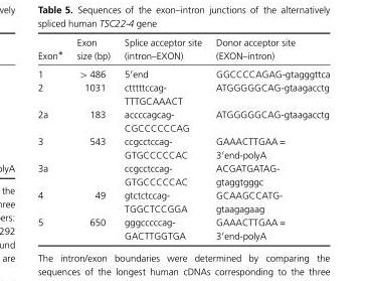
<table><thead><tr><td>Exon*</td><td>Exon size (bp)</td><td>Splice acceptor site (intron–EXON)</td><td>Donor acceptor site (EXON–intron)</td></tr></thead><tbody><tr><td>1</td><td>&gt; 486</td><td>5′end</td><td>GGCCCCAGAG-gtagggttca</td></tr><tr><td>2</td><td>1031</td><td>ctttttccag- TTTGCAAACT</td><td>ATGGGGGCAG-gtaagacctg</td></tr><tr><td>2a</td><td>183</td><td>accccagcag- CGCCCCCCAG</td><td>ATGGGGGCAG-gtaagacctg</td></tr><tr><td>3</td><td>543</td><td>ccgcctccag- GTGCCCCCAC</td><td>GAAACTTGAA = 3′end-polyA</td></tr><tr><td>3a</td><td></td><td>ccgcctccag- GTGCCCCCAC</td><td>ACGATGATAG- gtaggtgggc</td></tr><tr><td>4</td><td>49</td><td>gtctctccag- TGGCTCCGGA</td><td>GCAAGCCATG- gtaagagaag</td></tr><tr><td>5</td><td>650</td><td>gggcccccag- GACTTGGTGA</td><td>GAAACTTGAA = 3′end-polyA</td></tr></tbody></table>